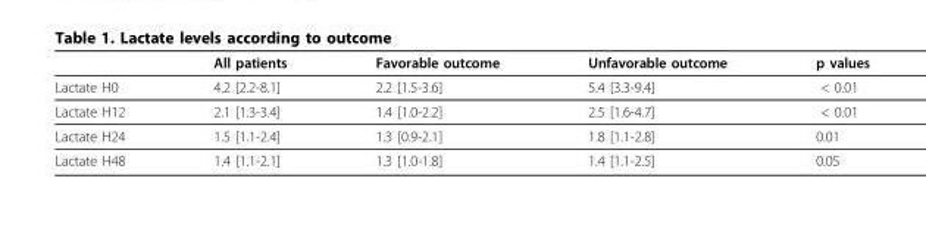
<table><thead><tr><td></td><td>All patients</td><td>Favorable outcome</td><td>Unfavorable outcome</td><td>p values</td></tr></thead><tbody><tr><td>Lactate H0</td><td>4.2 [2.2-8.1]</td><td>2.2 [1.5-3.6]</td><td>5.4 [3.3-9.4]</td><td>&lt; 0.01</td></tr><tr><td>Lactate H12</td><td>2.1 [1.3-3.4]</td><td>1.4 [1.0-2.2]</td><td>2.5 [1.6-4.7]</td><td>&lt; 0.01</td></tr><tr><td>Lactate H24</td><td>1.5 [1.1-2.4]</td><td>1.3 [0.9-2.1]</td><td>1.8 [1.1-2.8]</td><td>0.01</td></tr><tr><td>Lactate H48</td><td>1.4 [1.1-2.1]</td><td>1.3 [1.0-1.8]</td><td>1.4 [1.1-2.5]</td><td>0.05</td></tr></tbody></table>